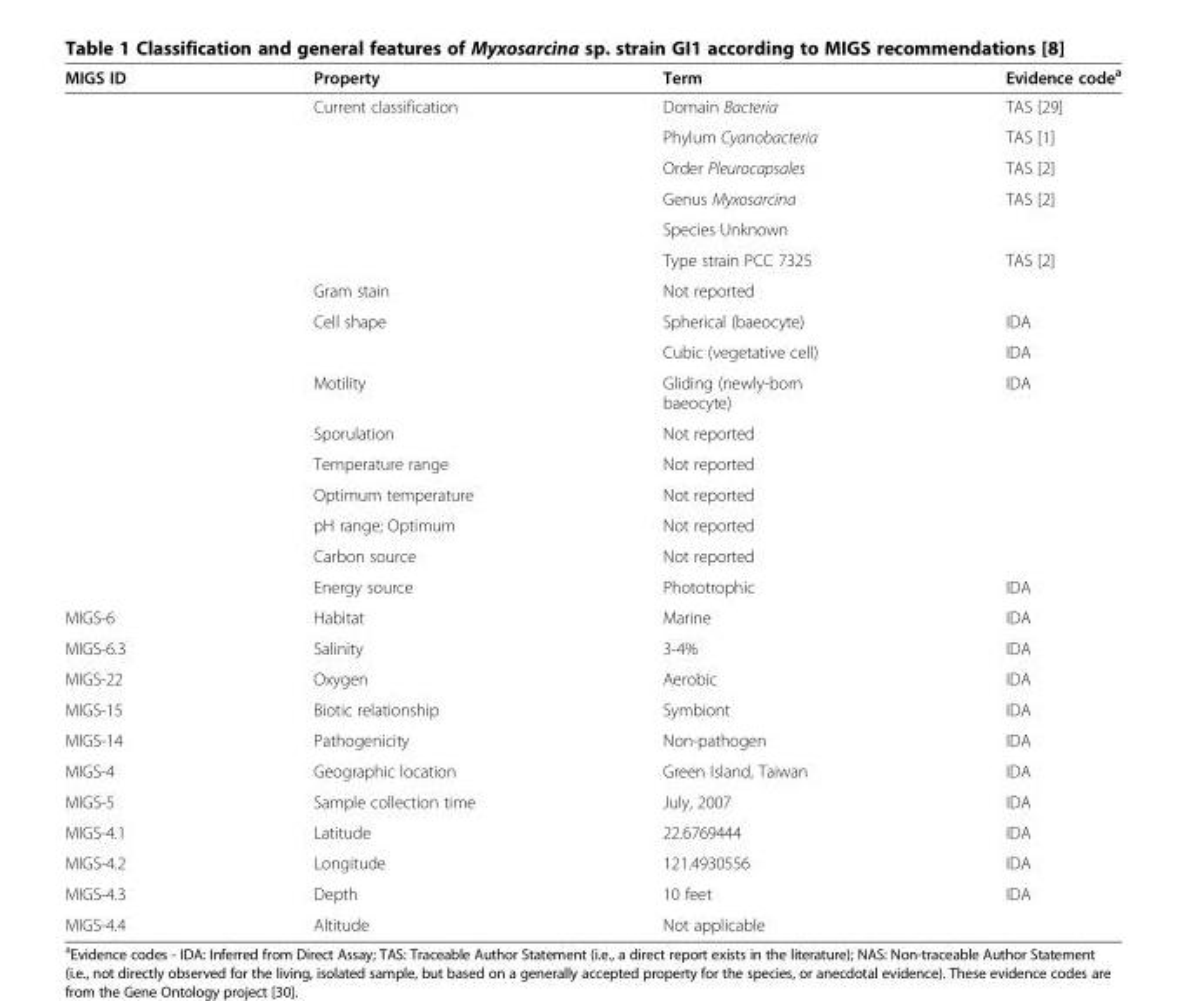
<table><thead><tr><td>MIGS ID</td><td>Property</td><td>Term</td><td>Evidence code<sup>a</sup></td></tr></thead><tbody><tr><td></td><td>Current classification</td><td>Domain Bacteria</td><td>TAS [29]</td></tr><tr><td></td><td></td><td>Phylum Cyanobacteria</td><td>TAS [1]</td></tr><tr><td></td><td></td><td>Order Pleurocapsales</td><td>TAS [2]</td></tr><tr><td></td><td></td><td>Genus Myxosarcina</td><td>TAS [2]</td></tr><tr><td></td><td></td><td>Species Unknown</td><td></td></tr><tr><td></td><td></td><td>Type strain PCC 7325</td><td>TAS [2]</td></tr><tr><td></td><td>Gram stain</td><td>Not reported</td><td></td></tr><tr><td></td><td>Cell shape</td><td>Spherical (baeocyte)</td><td>IDA</td></tr><tr><td></td><td></td><td>Cubic (vegetative cell)</td><td>IDA</td></tr><tr><td></td><td>Motility</td><td>Gliding (newly-born baeocyte)</td><td>IDA</td></tr><tr><td></td><td>Sporulation</td><td>Not reported</td><td></td></tr><tr><td></td><td>Temperature range</td><td>Not reported</td><td></td></tr><tr><td></td><td>Optimum temperature</td><td>Not reported</td><td></td></tr><tr><td></td><td>pH range; Optimum</td><td>Not reported</td><td></td></tr><tr><td></td><td>Carbon source</td><td>Not reported</td><td></td></tr><tr><td></td><td>Energy source</td><td>Phototrophic</td><td>IDA</td></tr><tr><td>MIGS-6</td><td>Habitat</td><td>Marine</td><td>IDA</td></tr><tr><td>MIGS-6.3</td><td>Salinity</td><td>3-4%</td><td>IDA</td></tr><tr><td>MIGS-22</td><td>Oxygen</td><td>Aerobic</td><td>IDA</td></tr><tr><td>MIGS-15</td><td>Biotic relationship</td><td>Symbiont</td><td>IDA</td></tr><tr><td>MIGS-14</td><td>Pathogenicity</td><td>Non-pathogen</td><td>IDA</td></tr><tr><td>MIGS-4</td><td>Geographic location</td><td>Green Island, Taiwan</td><td>IDA</td></tr><tr><td>MIGS-5</td><td>Sample collection time</td><td>July, 2007</td><td>IDA</td></tr><tr><td>MIGS-4.1</td><td>Latitude</td><td>22.6769444</td><td>IDA</td></tr><tr><td>MIGS-4.2</td><td>Longitude</td><td>121.4930556</td><td>IDA</td></tr><tr><td>MIGS-4.3</td><td>Depth</td><td>10 feet</td><td>IDA</td></tr><tr><td>MIGS-4.4</td><td>Altitude</td><td>Not applicable</td><td></td></tr></tbody></table>